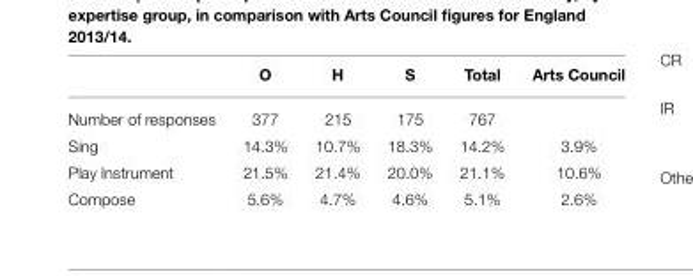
<table><thead><tr><td></td><td>O</td><td>H</td><td>S</td><td>Total</td><td>Arts Council</td></tr></thead><tbody><tr><td>Number of responses</td><td>377</td><td>215</td><td>175</td><td>767</td><td></td></tr><tr><td>Sing</td><td>14.3%</td><td>10.7%</td><td>18.3%</td><td>14.2%</td><td>3.9%</td></tr><tr><td>Play Instrument</td><td>21.5%</td><td>21.4%</td><td>20.0%</td><td>21.1%</td><td>10.6%</td></tr><tr><td>Compose</td><td>5.6%</td><td>4.7%</td><td>4.6%</td><td>5.1%</td><td>2.6%</td></tr></tbody></table>